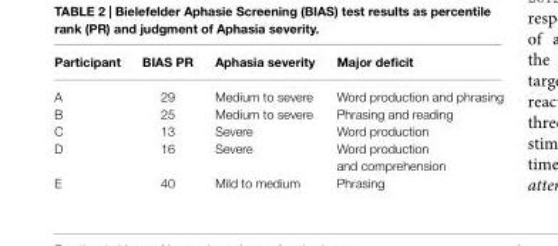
<table><thead><tr><td>Participant</td><td>BIAS PR</td><td>Aphasia severity</td><td>Major deficit</td></tr></thead><tbody><tr><td>A</td><td>29</td><td>Medium to severe</td><td>Word production and phrasing</td></tr><tr><td>B</td><td>25</td><td>Medium to severe</td><td>Phrasing and reading</td></tr><tr><td>C</td><td>13</td><td>Severe</td><td>Word production</td></tr><tr><td>D</td><td>16</td><td>Severe</td><td>Word production and comprehension</td></tr><tr><td>E</td><td>40</td><td>Mild to medium</td><td>Phrasing</td></tr></tbody></table>